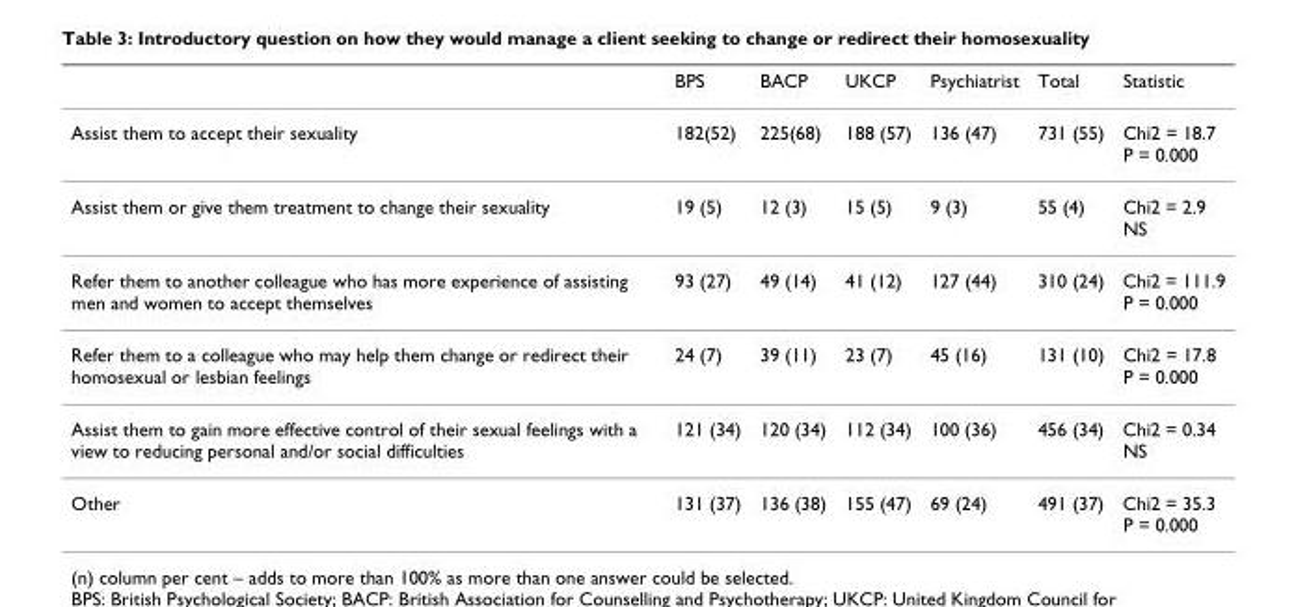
<table><thead><tr><td></td><td>BPS</td><td>BACP</td><td>UKCP</td><td>Psychiatrist</td><td>Total</td><td>Statistic</td></tr></thead><tbody><tr><td>Assist them to accept their sexuality</td><td>182(52)</td><td>225(68)</td><td>188 (57)</td><td>136 (47)</td><td>731 (55)</td><td>Chi2 = 18.7 P = 0.000</td></tr><tr><td>Assist them or give them treatment to change their sexuality</td><td>19 (5)</td><td>12 (3)</td><td>15 (5)</td><td>9 (3)</td><td>55 (4)</td><td>Chi2 = 2.9 NS</td></tr><tr><td>Refer them to another colleague who has more experience of assisting men and women to accept themselves</td><td>93 (27)</td><td>49 (14)</td><td>41 (12)</td><td>127 (44)</td><td>310 (24)</td><td>Chi2 = 111.9 P = 0.000</td></tr><tr><td>Refer them to a colleague who may help them change or redirect their homosexual or lesbian feelings</td><td>24 (7)</td><td>39 (11)</td><td>23 (7)</td><td>45 (16)</td><td>131 (10)</td><td>Chi2 = 17.8 P = 0.000</td></tr><tr><td>Assist them to gain more effective control of their sexual feelings with a view to reducing personal and/or social difficulties</td><td>121 (34)</td><td>120 (34)</td><td>112 (34)</td><td>100 (36)</td><td>456 (34)</td><td>Chi2 = 0.34 NS</td></tr><tr><td>Other</td><td>131 (37)</td><td>136 (38)</td><td>155 (47)</td><td>69 (24)</td><td>491 (37)</td><td>Chi2 = 35.3 P = 0.000</td></tr></tbody></table>